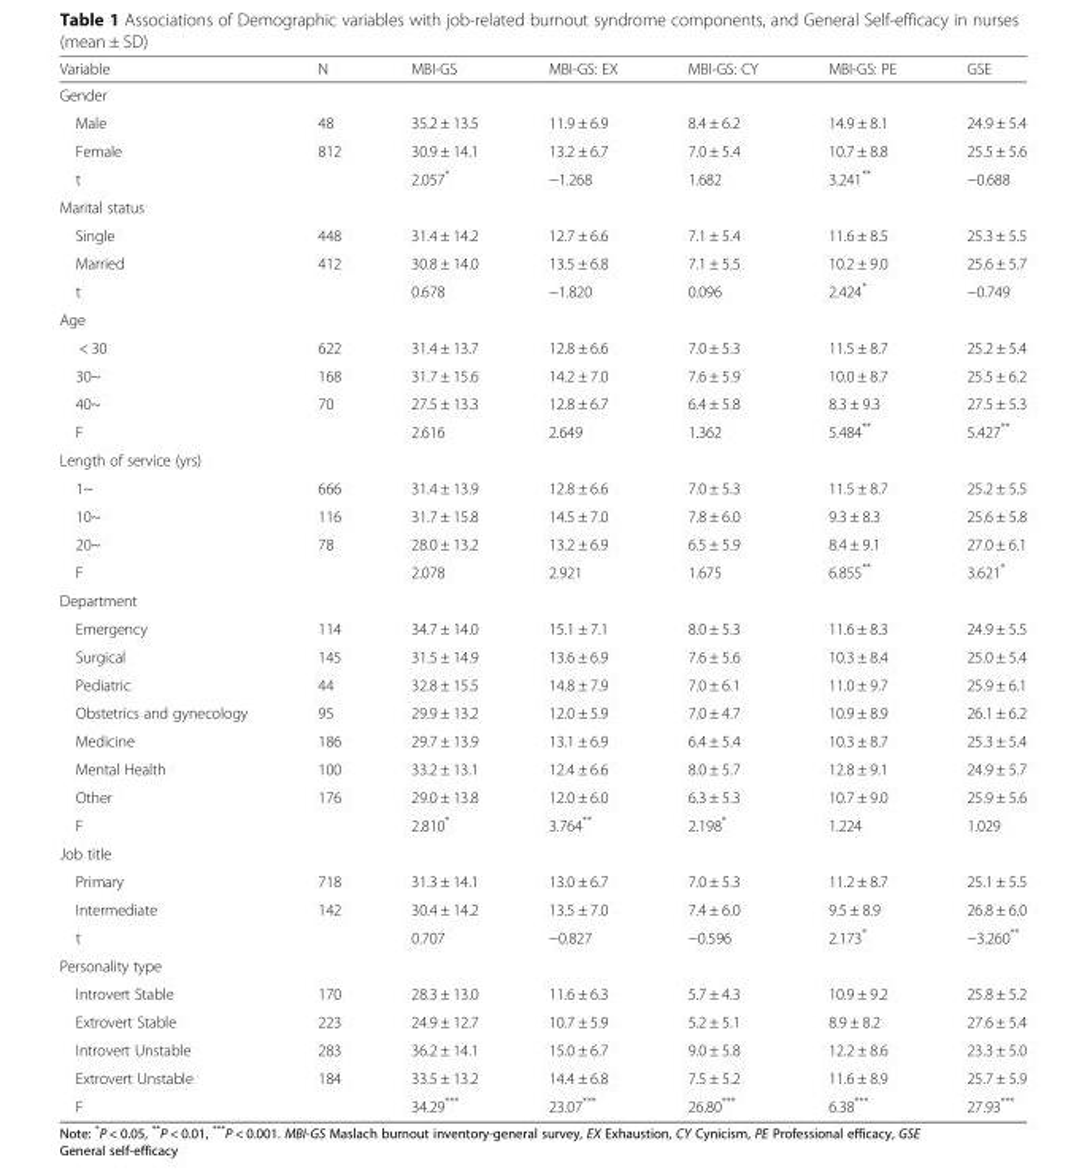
<table><thead><tr><td>Variable</td><td>N</td><td>MBI-GS</td><td>MBI-GS: EX</td><td>MBI-GS: CY</td><td>MBI-GS: PE</td><td>GSE</td></tr></thead><tbody><tr><td colspan="7">Gender</td></tr><tr><td>Male</td><td>48</td><td>35.2 ± 13.5</td><td>11.9 ± 6.9</td><td>8.4 ± 6.2</td><td>14.9 ± 8.1</td><td>24.9 ± 5.4</td></tr><tr><td>Female</td><td>812</td><td>30.9 ± 14.1</td><td>13.2 ± 6.7</td><td>7.0 ± 5.4</td><td>10.7 ± 8.8</td><td>25.5 ± 5.6</td></tr><tr><td>t</td><td></td><td>2.057*</td><td>−1.268</td><td>1.682</td><td>3.241**</td><td>−0.688</td></tr><tr><td colspan="7">Marital status</td></tr><tr><td>Single</td><td>448</td><td>31.4 ± 14.2</td><td>12.7 ± 6.6</td><td>7.1 ± 5.4</td><td>11.6 ± 8.5</td><td>25.3 ± 5.5</td></tr><tr><td>Married</td><td>412</td><td>30.8 ± 14.0</td><td>13.5 ± 6.8</td><td>7.1 ± 5.5</td><td>10.2 ± 9.0</td><td>25.6 ± 5.7</td></tr><tr><td>t</td><td></td><td>0.678</td><td>−1.820</td><td>0.096</td><td>2.424*</td><td>−0.749</td></tr><tr><td colspan="7">Age</td></tr><tr><td>&lt; 30</td><td>622</td><td>31.4 ± 13.7</td><td>12.8 ± 6.6</td><td>7.0 ± 5.3</td><td>11.5 ± 8.7</td><td>25.2 ± 5.4</td></tr><tr><td>30~</td><td>168</td><td>31.7 ± 15.6</td><td>14.2 ± 7.0</td><td>7.6 ± 5.9</td><td>10.0 ± 8.7</td><td>25.5 ± 6.2</td></tr><tr><td>40~</td><td>70</td><td>27.5 ± 13.3</td><td>12.8 ± 6.7</td><td>6.4 ± 5.8</td><td>8.3 ± 9.3</td><td>27.5 ± 5.3</td></tr><tr><td>F</td><td></td><td>2.616</td><td>2.649</td><td>1.362</td><td>5.484**</td><td>5.427**</td></tr><tr><td colspan="7">Length of service (yrs)</td></tr><tr><td>1~</td><td>666</td><td>31.4 ± 13.9</td><td>12.8 ± 6.6</td><td>7.0 ± 5.3</td><td>11.5 ± 8.7</td><td>25.2 ± 5.5</td></tr><tr><td>10~</td><td>116</td><td>31.7 ± 15.8</td><td>14.5 ± 7.0</td><td>7.8 ± 6.0</td><td>9.3 ± 8.3</td><td>25.6 ± 5.8</td></tr><tr><td>20~</td><td>78</td><td>28.0 ± 13.2</td><td>13.2 ± 6.9</td><td>6.5 ± 5.9</td><td>8.4 ± 9.1</td><td>27.0 ± 6.1</td></tr><tr><td>F</td><td></td><td>2.078</td><td>2.921</td><td>1.675</td><td>6.855**</td><td>3.621*</td></tr><tr><td colspan="7">Department</td></tr><tr><td>Emergency</td><td>114</td><td>34.7 ± 14.0</td><td>15.1 ± 7.1</td><td>8.0 ± 5.3</td><td>11.6 ± 8.3</td><td>24.9 ± 5.5</td></tr><tr><td>Surgical</td><td>145</td><td>31.5 ± 14.9</td><td>13.6 ± 6.9</td><td>7.6 ± 5.6</td><td>10.3 ± 8.4</td><td>25.0 ± 5.4</td></tr><tr><td>Pediatric</td><td>44</td><td>32.8 ± 15.5</td><td>14.8 ± 7.9</td><td>7.0 ± 6.1</td><td>11.0 ± 9.7</td><td>25.9 ± 6.1</td></tr><tr><td>Obstetrics and gynecology</td><td>95</td><td>29.9 ± 13.2</td><td>12.0 ± 5.9</td><td>7.0 ± 4.7</td><td>10.9 ± 8.9</td><td>26.1 ± 6.2</td></tr><tr><td>Medicine</td><td>186</td><td>29.7 ± 13.9</td><td>13.1 ± 6.9</td><td>6.4 ± 5.4</td><td>10.3 ± 8.7</td><td>25.3 ± 5.4</td></tr><tr><td>Mental Health</td><td>100</td><td>33.2 ± 13.1</td><td>12.4 ± 6.6</td><td>8.0 ± 5.7</td><td>12.8 ± 9.1</td><td>24.9 ± 5.7</td></tr><tr><td>Other</td><td>176</td><td>29.0 ± 13.8</td><td>12.0 ± 6.0</td><td>6.3 ± 5.3</td><td>10.7 ± 9.0</td><td>25.9 ± 5.6</td></tr><tr><td>F</td><td></td><td>2.810*</td><td>3.764**</td><td>2.198*</td><td>1.224</td><td>1.029</td></tr><tr><td colspan="7">Job title</td></tr><tr><td>Primary</td><td>718</td><td>31.3 ± 14.1</td><td>13.0 ± 6.7</td><td>7.0 ± 5.3</td><td>11.2 ± 8.7</td><td>25.1 ± 5.5</td></tr><tr><td>Intermediate</td><td>142</td><td>30.4 ± 14.2</td><td>13.5 ± 7.0</td><td>7.4 ± 6.0</td><td>9.5 ± 8.9</td><td>26.8 ± 6.0</td></tr><tr><td>t</td><td></td><td>0.707</td><td>−0.827</td><td>−0.596</td><td>2.173*</td><td>−3.260**</td></tr><tr><td colspan="7">Personality type</td></tr><tr><td>Introvert Stable</td><td>170</td><td>28.3 ± 13.0</td><td>11.6 ± 6.3</td><td>5.7 ± 4.3</td><td>10.9 ± 9.2</td><td>25.8 ± 5.2</td></tr><tr><td>Extrovert Stable</td><td>223</td><td>24.9 ± 12.7</td><td>10.7 ± 5.9</td><td>5.2 ± 5.1</td><td>8.9 ± 8.2</td><td>27.6 ± 5.4</td></tr><tr><td>Introvert Unstable</td><td>283</td><td>36.2 ± 14.1</td><td>15.0 ± 6.7</td><td>9.0 ± 5.8</td><td>12.2 ± 8.6</td><td>23.3 ± 5.0</td></tr><tr><td>Extrovert Unstable</td><td>184</td><td>33.5 ± 13.2</td><td>14.4 ± 6.8</td><td>7.5 ± 5.2</td><td>11.6 ± 8.9</td><td>25.7 ± 5.9</td></tr><tr><td>F</td><td></td><td>34.29***</td><td>23.07***</td><td>26.80***</td><td>6.38***</td><td>27.93***</td></tr></tbody></table>